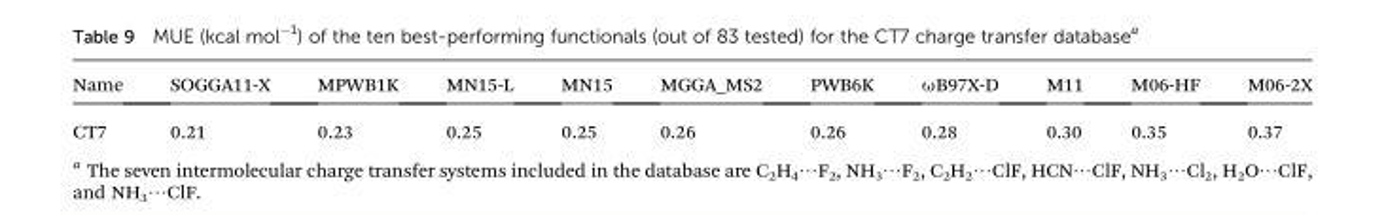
<table><thead><tr><td>Name</td><td>SOGGA11-X</td><td>MPWB1K</td><td>MN15-L</td><td>MN15</td><td>MGGA_MS2</td><td>PWB6K</td><td>ωB97X-D</td><td>M11</td><td>M06-HF</td><td>M06-2X</td></tr></thead><tbody><tr><td>CT7</td><td>0.21</td><td>0.23</td><td>0.25</td><td>0.25</td><td>0.26</td><td>0.26</td><td>0.28</td><td>0.30</td><td>0.35</td><td>0.37</td></tr></tbody></table>